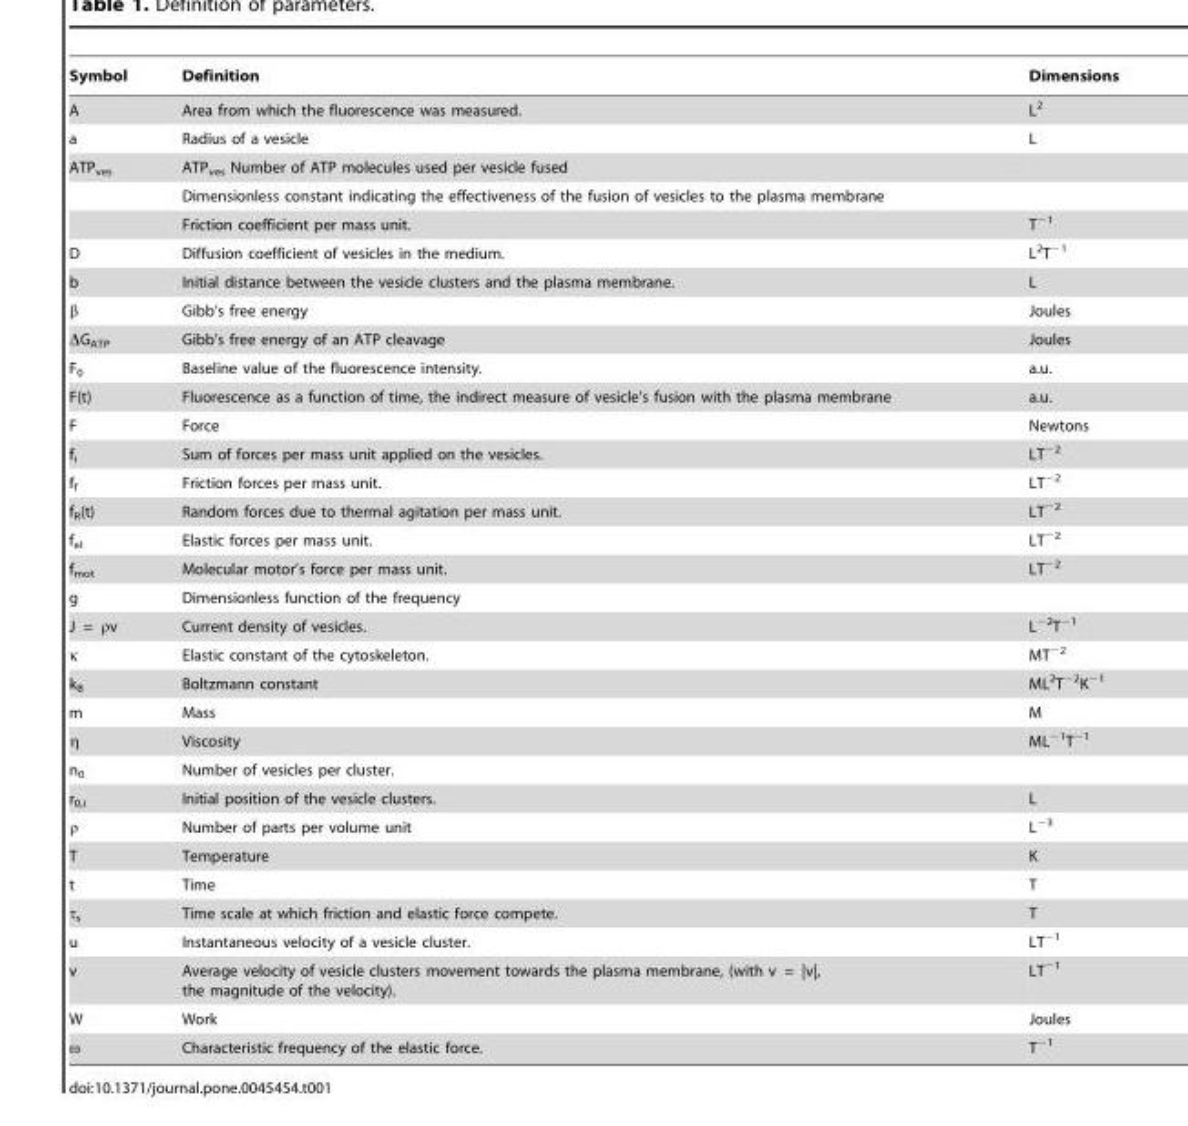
<table><thead><tr><td>Symbol</td><td>Definition</td><td>Dimensions</td></tr></thead><tbody><tr><td>A</td><td>Area from which the fluorescence was measured.</td><td>L<sup>2</sup></td></tr><tr><td>a</td><td>Radius of a vesicle</td><td>L</td></tr><tr><td rowspan="3">ATP<sub>ves</sub></td><td>ATP<sub>ves</sub> Number of ATP molecules used per vesicle fused</td><td></td></tr><tr><td>Dimensionless constant indicating the effectiveness of the fusion of vesicles to the plasma membrane</td><td></td></tr><tr><td>Friction coefficient per mass unit.</td><td>T<sup>−1</sup></td></tr><tr><td>D</td><td>Diffusion coefficient of vesicles in the medium.</td><td>L<sup>2</sup>T<sup>−1</sup></td></tr><tr><td>b</td><td>Initial distance between the vesicle clusters and the plasma membrane.</td><td>L</td></tr><tr><td>β</td><td>Gibb’s free energy</td><td>Joules</td></tr><tr><td>ΔG<sub>ATP</sub></td><td>Gibb’s free energy of an ATP cleavage</td><td>Joules</td></tr><tr><td>F<sub>0</sub></td><td>Baseline value of the fluorescence intensity.</td><td>a.u.</td></tr><tr><td>F(t)</td><td>Fluorescence as a function of time, the indirect measure of vesicle’s fusion with the plasma membrane</td><td>a.u.</td></tr><tr><td>F</td><td>Force</td><td>Newtons</td></tr><tr><td>f<sub>i</sub></td><td>Sum of forces per mass unit applied on the vesicles.</td><td>LT<sup>−2</sup></td></tr><tr><td>f<sub>f</sub></td><td>Friction forces per mass unit.</td><td>LT<sup>−2</sup></td></tr><tr><td>f<sub>R</sub>(t)</td><td>Random forces due to thermal agitation per mass unit.</td><td>LT<sup>−2</sup></td></tr><tr><td>f<sub>el</sub></td><td>Elastic forces per mass unit.</td><td>LT<sup>−2</sup></td></tr><tr><td>f<sub>mot</sub></td><td>Molecular motor’s force per mass unit.</td><td>LT<sup>−2</sup></td></tr><tr><td>g</td><td>Dimensionless function of the frequency</td><td></td></tr><tr><td>J = ρv</td><td>Current density of vesicles.</td><td>L<sup>−2</sup>T<sup>−1</sup></td></tr><tr><td>κ</td><td>Elastic constant of the cytoskeleton.</td><td>MT<sup>−2</sup></td></tr><tr><td>k<sub>B</sub></td><td>Boltzmann constant</td><td>ML<sup>2</sup>T<sup>−2</sup>K<sup>−1</sup></td></tr><tr><td>m</td><td>Mass</td><td>M</td></tr><tr><td>η</td><td>Viscosity</td><td>ML<sup>−1</sup>T<sup>−1</sup></td></tr><tr><td>n<sub>0</sub></td><td>Number of vesicles per cluster.</td><td></td></tr><tr><td>r<sub>0,i</sub></td><td>Initial position of the vesicle clusters.</td><td>L</td></tr><tr><td>ρ</td><td>Number of parts per volume unit</td><td>L<sup>−3</sup></td></tr><tr><td>T</td><td>Temperature</td><td>K</td></tr><tr><td>t</td><td>Time</td><td>T</td></tr><tr><td>τ<sub>s</sub></td><td>Time scale at which friction and elastic force compete.</td><td>T</td></tr><tr><td>u</td><td>Instantaneous velocity of a vesicle cluster.</td><td>LT<sup>−1</sup></td></tr><tr><td>v</td><td>Average velocity of vesicle clusters movement towards the plasma membrane, (with v = |v|, the magnitude of the velocity).</td><td>LT<sup>−1</sup></td></tr><tr><td>W</td><td>Work</td><td>Joules</td></tr><tr><td>ω</td><td>Characteristic frequency of the elastic force.</td><td>T<sup>−1</sup></td></tr></tbody></table>